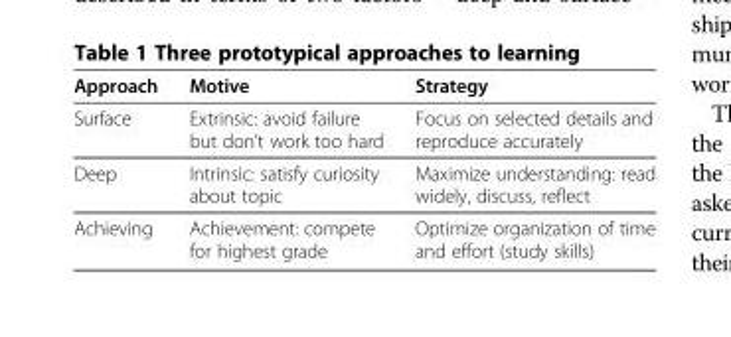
<table><thead><tr><td>Approach</td><td>Motive</td><td>Strategy</td></tr></thead><tbody><tr><td>Surface</td><td>Extrinsic: avoid failure but don’t work too hard</td><td>Focus on selected details and reproduce accurately</td></tr><tr><td>Deep</td><td>Intrinsic: satisfy curiosity about topic</td><td>Maximize understanding: read widely, discuss, reflect</td></tr><tr><td>Achieving</td><td>Achievement: compete for highest grade</td><td>Optimize organization of time and effort (study skills)</td></tr></tbody></table>